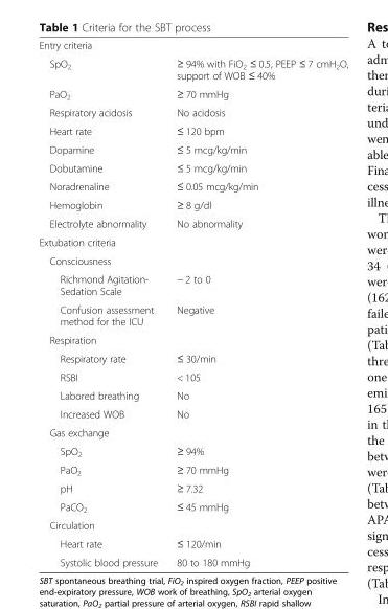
<table><tbody><tr><td colspan="2">Entry criteria</td></tr><tr><td>SpO<sub>2</sub></td><td>≥ 94% with FiO<sub>2</sub> ≤ 0.5, PEEP ≤ 7 cmH<sub>2</sub>O, support of WOB ≤ 40%</td></tr><tr><td>PaO<sub>2</sub></td><td>≥ 70 mmHg</td></tr><tr><td>Respiratory acidosis</td><td>No acidosis</td></tr><tr><td>Heart rate</td><td>≤ 120 bpm</td></tr><tr><td>Dopamine</td><td>≤ 5 mcg/kg/min</td></tr><tr><td>Dobutamine</td><td>≤ 5 mcg/kg/min</td></tr><tr><td>Noradrenaline</td><td>≤ 0.05 mcg/kg/min</td></tr><tr><td>Hemoglobin</td><td>≥ 8 g/dl</td></tr><tr><td>Electrolyte abnormality</td><td>No abnormality</td></tr><tr><td colspan="2">Extubation criteria</td></tr><tr><td colspan="2">Consciousness</td></tr><tr><td>Richmond Agitation- Sedation Scale</td><td>− 2 to 0</td></tr><tr><td>Confusion assessment method for the ICU</td><td>Negative</td></tr><tr><td colspan="2">Respiration</td></tr><tr><td>Respiratory rate</td><td>≤ 30/min</td></tr><tr><td>RSBI</td><td>&lt; 105</td></tr><tr><td>Labored breathing</td><td>No</td></tr><tr><td>Increased WOB</td><td>No</td></tr><tr><td colspan="2">Gas exchange</td></tr><tr><td>SpO<sub>2</sub></td><td>≥ 94%</td></tr><tr><td>PaO<sub>2</sub></td><td>≥ 70 mmHg</td></tr><tr><td>pH</td><td>≥ 7.32</td></tr><tr><td>PaCO<sub>2</sub></td><td>≤ 45 mmHg</td></tr><tr><td colspan="2">Circulation</td></tr><tr><td>Heart rate</td><td>≤ 120/min</td></tr><tr><td>Systolic blood pressure</td><td>80 to 180 mmHg</td></tr></tbody></table>